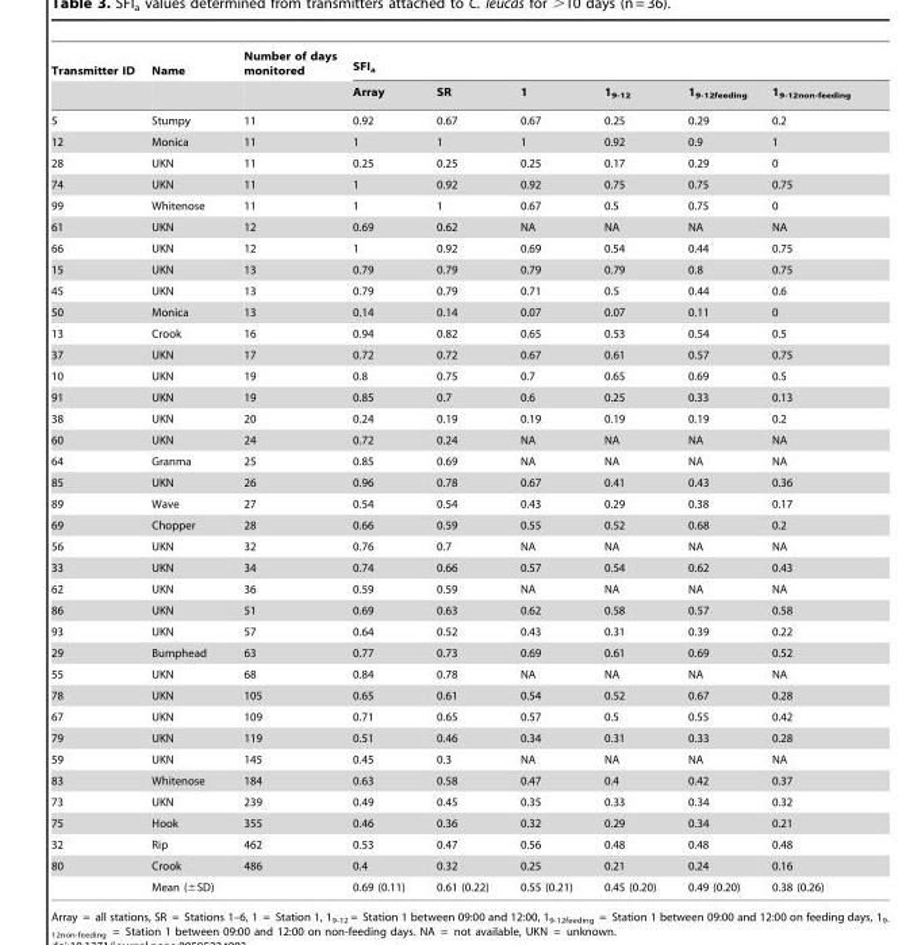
<table><thead><tr><td rowspan="2">Transmitter ID</td><td rowspan="2">Name</td><td rowspan="2">Number of days monitored</td><td colspan="6">SFI<sub>a</sub></td></tr><tr><td>Array</td><td>SR</td><td>1</td><td>1<sub>9-12</sub></td><td>1<sub>9-12feeding</sub></td><td>1<sub>9-12non-feeding</sub></td></tr></thead><tbody><tr><td>5</td><td>Stumpy</td><td>11</td><td>0.92</td><td>0.67</td><td>0.67</td><td>0.25</td><td>0.29</td><td>0.2</td></tr><tr><td>12</td><td>Monica</td><td>11</td><td>1</td><td>1</td><td>1</td><td>0.92</td><td>0.9</td><td>1</td></tr><tr><td>28</td><td>UKN</td><td>11</td><td>0.25</td><td>0.25</td><td>0.25</td><td>0.17</td><td>0.29</td><td>0</td></tr><tr><td>74</td><td>UKN</td><td>11</td><td>1</td><td>0.92</td><td>0.92</td><td>0.75</td><td>0.75</td><td>0.75</td></tr><tr><td>99</td><td>Whitenose</td><td>11</td><td>1</td><td>1</td><td>0.67</td><td>0.5</td><td>0.75</td><td>0</td></tr><tr><td>61</td><td>UKN</td><td>12</td><td>0.69</td><td>0.62</td><td>NA</td><td>NA</td><td>NA</td><td>NA</td></tr><tr><td>66</td><td>UKN</td><td>12</td><td>1</td><td>0.92</td><td>0.69</td><td>0.54</td><td>0.44</td><td>0.75</td></tr><tr><td>15</td><td>UKN</td><td>13</td><td>0.79</td><td>0.79</td><td>0.79</td><td>0.79</td><td>0.8</td><td>0.75</td></tr><tr><td>45</td><td>UKN</td><td>13</td><td>0.79</td><td>0.79</td><td>0.71</td><td>0.5</td><td>0.44</td><td>0.6</td></tr><tr><td>50</td><td>Monica</td><td>13</td><td>0.14</td><td>0.14</td><td>0.07</td><td>0.07</td><td>0.11</td><td>0</td></tr><tr><td>13</td><td>Crook</td><td>16</td><td>0.94</td><td>0.82</td><td>0.65</td><td>0.53</td><td>0.54</td><td>0.5</td></tr><tr><td>37</td><td>UKN</td><td>17</td><td>0.72</td><td>0.72</td><td>0.67</td><td>0.61</td><td>0.57</td><td>0.75</td></tr><tr><td>10</td><td>UKN</td><td>19</td><td>0.8</td><td>0.75</td><td>0.7</td><td>0.65</td><td>0.69</td><td>0.5</td></tr><tr><td>91</td><td>UKN</td><td>19</td><td>0.85</td><td>0.7</td><td>0.6</td><td>0.25</td><td>0.33</td><td>0.13</td></tr><tr><td>38</td><td>UKN</td><td>20</td><td>0.24</td><td>0.19</td><td>0.19</td><td>0.19</td><td>0.19</td><td>0.2</td></tr><tr><td>60</td><td>UKN</td><td>24</td><td>0.72</td><td>0.24</td><td>NA</td><td>NA</td><td>NA</td><td>NA</td></tr><tr><td>64</td><td>Granma</td><td>25</td><td>0.85</td><td>0.69</td><td>NA</td><td>NA</td><td>NA</td><td>NA</td></tr><tr><td>85</td><td>UKN</td><td>26</td><td>0.96</td><td>0.78</td><td>0.67</td><td>0.41</td><td>0.43</td><td>0.36</td></tr><tr><td>89</td><td>Wave</td><td>27</td><td>0.54</td><td>0.54</td><td>0.43</td><td>0.29</td><td>0.38</td><td>0.17</td></tr><tr><td>69</td><td>Chopper</td><td>28</td><td>0.66</td><td>0.59</td><td>0.55</td><td>0.52</td><td>0.68</td><td>0.2</td></tr><tr><td>56</td><td>UKN</td><td>32</td><td>0.76</td><td>0.7</td><td>NA</td><td>NA</td><td>NA</td><td>NA</td></tr><tr><td>33</td><td>UKN</td><td>34</td><td>0.74</td><td>0.66</td><td>0.57</td><td>0.54</td><td>0.62</td><td>0.43</td></tr><tr><td>62</td><td>UKN</td><td>36</td><td>0.59</td><td>0.59</td><td>NA</td><td>NA</td><td>NA</td><td>NA</td></tr><tr><td>86</td><td>UKN</td><td>51</td><td>0.69</td><td>0.63</td><td>0.62</td><td>0.58</td><td>0.57</td><td>0.58</td></tr><tr><td>93</td><td>UKN</td><td>57</td><td>0.64</td><td>0.52</td><td>0.43</td><td>0.31</td><td>0.39</td><td>0.22</td></tr><tr><td>29</td><td>Bumphead</td><td>63</td><td>0.77</td><td>0.73</td><td>0.69</td><td>0.61</td><td>0.69</td><td>0.52</td></tr><tr><td>55</td><td>UKN</td><td>68</td><td>0.84</td><td>0.78</td><td>NA</td><td>NA</td><td>NA</td><td>NA</td></tr><tr><td>78</td><td>UKN</td><td>105</td><td>0.65</td><td>0.61</td><td>0.54</td><td>0.52</td><td>0.67</td><td>0.28</td></tr><tr><td>67</td><td>UKN</td><td>109</td><td>0.71</td><td>0.65</td><td>0.57</td><td>0.5</td><td>0.55</td><td>0.42</td></tr><tr><td>79</td><td>UKN</td><td>119</td><td>0.51</td><td>0.46</td><td>0.34</td><td>0.31</td><td>0.33</td><td>0.28</td></tr><tr><td>59</td><td>UKN</td><td>145</td><td>0.45</td><td>0.3</td><td>NA</td><td>NA</td><td>NA</td><td>NA</td></tr><tr><td>83</td><td>Whitenose</td><td>184</td><td>0.63</td><td>0.58</td><td>0.47</td><td>0.4</td><td>0.42</td><td>0.37</td></tr><tr><td>73</td><td>UKN</td><td>239</td><td>0.49</td><td>0.45</td><td>0.35</td><td>0.33</td><td>0.34</td><td>0.32</td></tr><tr><td>75</td><td>Hook</td><td>355</td><td>0.46</td><td>0.36</td><td>0.32</td><td>0.29</td><td>0.34</td><td>0.21</td></tr><tr><td>32</td><td>Rip</td><td>462</td><td>0.53</td><td>0.47</td><td>0.56</td><td>0.48</td><td>0.48</td><td>0.48</td></tr><tr><td rowspan="2">80</td><td>Crook</td><td>486</td><td>0.4</td><td>0.32</td><td>0.25</td><td>0.21</td><td>0.24</td><td>0.16</td></tr><tr><td>Mean (±SD)</td><td></td><td>0.69 (0.11)</td><td>0.61 (0.22)</td><td>0.55 (0.21)</td><td>0.45 (0.20)</td><td>0.49 (0.20)</td><td>0.38 (0.26)</td></tr></tbody></table>